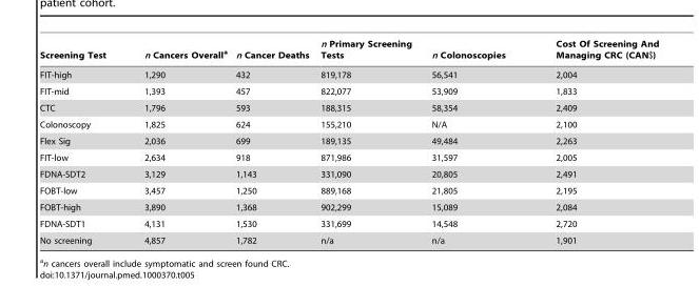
<table><thead><tr><td>Screening Test</td><td>n Cancers Overall<sup>a</sup></td><td>n Cancer Deaths</td><td>n Primary Screening Tests</td><td>n Colonoscopies</td><td>Cost Of Screening And Managing CRC (CAN$)</td></tr></thead><tbody><tr><td>FIT-high</td><td>1,290</td><td>432</td><td>819,178</td><td>56,541</td><td>2,004</td></tr><tr><td>FIT-mid</td><td>1,393</td><td>457</td><td>822,077</td><td>53,909</td><td>1,833</td></tr><tr><td>CTC</td><td>1,796</td><td>593</td><td>188,315</td><td>58,354</td><td>2,409</td></tr><tr><td>Colonoscopy</td><td>1,825</td><td>624</td><td>155,210</td><td>N/A</td><td>2,100</td></tr><tr><td>Flex Sig</td><td>2,036</td><td>699</td><td>189,135</td><td>49,484</td><td>2,263</td></tr><tr><td>FIT-low</td><td>2,634</td><td>918</td><td>871,986</td><td>31,597</td><td>2,005</td></tr><tr><td>FDNA-SDT2</td><td>3,129</td><td>1,143</td><td>331,090</td><td>20,805</td><td>2,491</td></tr><tr><td>FOBT-low</td><td>3,457</td><td>1,250</td><td>889,168</td><td>21,805</td><td>2,195</td></tr><tr><td>FOBT-high</td><td>3,890</td><td>1,368</td><td>902,299</td><td>15,089</td><td>2,084</td></tr><tr><td>FDNA-SDT1</td><td>4,131</td><td>1,530</td><td>331,699</td><td>14,548</td><td>2,720</td></tr><tr><td>No screening</td><td>4,857</td><td>1,782</td><td>n/a</td><td>n/a</td><td>1,901</td></tr></tbody></table>